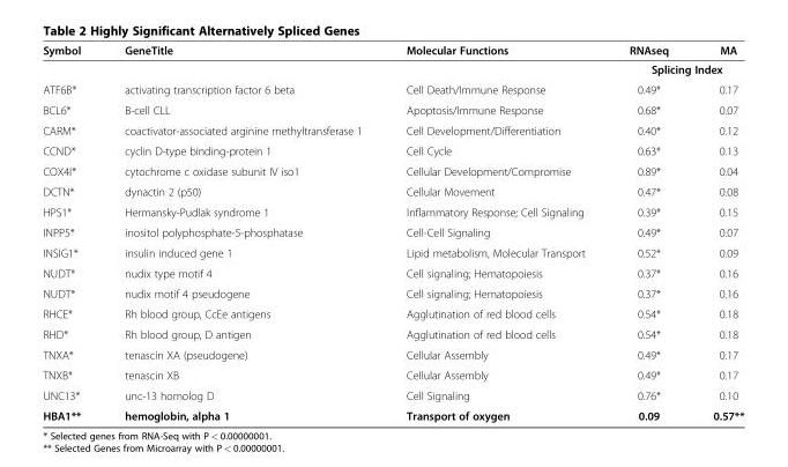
<table><thead><tr><td>Symbol</td><td>GeneTitle</td><td>Molecular Functions</td><td>RNAseq</td><td>MA</td></tr></thead><tbody><tr><td></td><td></td><td></td><td colspan="2">Splicing Index</td></tr><tr><td>ATF6B*</td><td>activating transcription factor 6 beta</td><td>Cell Death/Immune Response</td><td>0.49*</td><td>0.17</td></tr><tr><td>BCL6*</td><td>B-cell CLL</td><td>Apoptosis/Immune Response</td><td>0.68*</td><td>0.07</td></tr><tr><td>CARM*</td><td>coactivator-associated arginine methyltransferase 1</td><td>Cell Development/Differentiation</td><td>0.40*</td><td>0.12</td></tr><tr><td>CCND*</td><td>cyclin D-type binding-protein 1</td><td>Cell Cycle</td><td>0.63*</td><td>0.13</td></tr><tr><td>COX4I*</td><td>cytochrome c oxidase subunit IV iso1</td><td>Cellular Development/Compromise</td><td>0.89*</td><td>0.04</td></tr><tr><td>DCTN*</td><td>dynactin 2 (p50)</td><td>Cellular Movement</td><td>0.47*</td><td>0.08</td></tr><tr><td>HPS1*</td><td>Hermansky-Pudlak syndrome 1</td><td>Inflammatory Response; Cell Signaling</td><td>0.39*</td><td>0.15</td></tr><tr><td>INPP5*</td><td>inositol polyphosphate-5-phosphatase</td><td>Cell-Cell Signaling</td><td>0.49*</td><td>0.07</td></tr><tr><td>INSIG1*</td><td>insulin induced gene 1</td><td>Lipid metabolism, Molecular Transport</td><td>0.52*</td><td>0.09</td></tr><tr><td>NUDT*</td><td>nudix type motif 4</td><td>Cell signaling; Hematopoiesis</td><td>0.37*</td><td>0.16</td></tr><tr><td>NUDT*</td><td>nudix motif 4 pseudogene</td><td>Cell signaling; Hematopoiesis</td><td>0.37*</td><td>0.16</td></tr><tr><td>RHCE*</td><td>Rh blood group, CcEe antigens</td><td>Agglutination of red blood cells</td><td>0.54*</td><td>0.18</td></tr><tr><td>RHD*</td><td>Rh blood group, D antigen</td><td>Agglutination of red blood cells</td><td>0.54*</td><td>0.18</td></tr><tr><td>TNXA*</td><td>tenascin XA (pseudogene)</td><td>Cellular Assembly</td><td>0.49*</td><td>0.17</td></tr><tr><td>TNXB*</td><td>tenascin XB</td><td>Cellular Assembly</td><td>0.49*</td><td>0.17</td></tr><tr><td>UNC13*</td><td>unc-13 homolog D</td><td>Cell Signaling</td><td>0.76*</td><td>0.10</td></tr><tr><td>HBA1**</td><td>hemoglobin, alpha 1</td><td>Transport of oxygen</td><td>0.09</td><td>0.57**</td></tr></tbody></table>